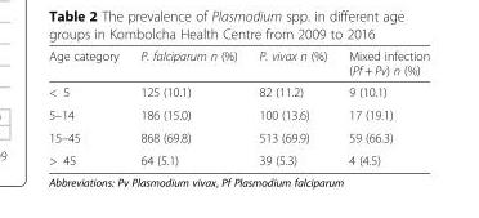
<table><thead><tr><td>Age category</td><td>P. falciparum n (%)</td><td>P. vivax n (%)</td><td>Mixed infection (Pf + Pv) n (%)</td></tr></thead><tbody><tr><td>&lt; 5</td><td>125 (10.1)</td><td>82 (11.2)</td><td>9 (10.1)</td></tr><tr><td>5–14</td><td>186 (15.0)</td><td>100 (13.6)</td><td>17 (19.1)</td></tr><tr><td>15–45</td><td>868 (69.8)</td><td>513 (69.9)</td><td>59 (66.3)</td></tr><tr><td>&gt; 45</td><td>64 (5.1)</td><td>39 (5.3)</td><td>4 (4.5)</td></tr></tbody></table>